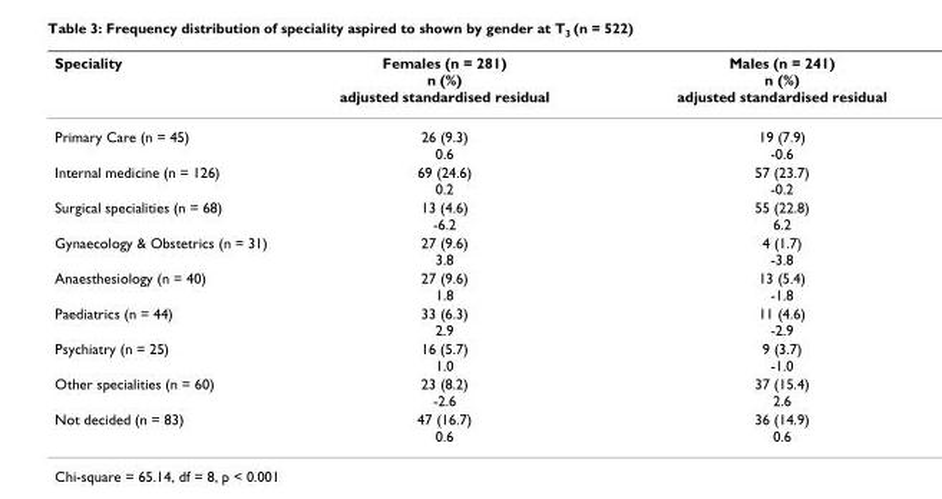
<table><thead><tr><td>Speciality</td><td>Females (n = 281) n (%) adjusted standardised residual</td><td>Males (n = 241) n (%) adjusted standardised residual</td></tr></thead><tbody><tr><td>Primary Care (n = 45)</td><td>26 (9.3) 0.6</td><td>19 (7.9) -0.6</td></tr><tr><td>Internal medicine (n = 126)</td><td>69 (24.6) 0.2</td><td>57 (23.7) -0.2</td></tr><tr><td>Surgical specialities (n = 68)</td><td>13 (4.6) -6.2</td><td>55 (22.8) 6.2</td></tr><tr><td>Gynaecology &amp; Obstetrics (n = 31)</td><td>27 (9.6) 3.8</td><td>4 (1.7) -3.8</td></tr><tr><td>Anaesthesiology (n = 40)</td><td>27 (9.6) 1.8</td><td>13 (5.4) -1.8</td></tr><tr><td>Paediatrics (n = 44)</td><td>33 (6.3) 2.9</td><td>11 (4.6) -2.9</td></tr><tr><td>Psychiatry (n = 25)</td><td>16 (5.7) 1.0</td><td>9 (3.7) -1.0</td></tr><tr><td>Other specialities (n = 60)</td><td>23 (8.2) -2.6</td><td>37 (15.4) 2.6</td></tr><tr><td>Not decided (n = 83)</td><td>47 (16.7) 0.6</td><td>36 (14.9) 0.6</td></tr></tbody></table>